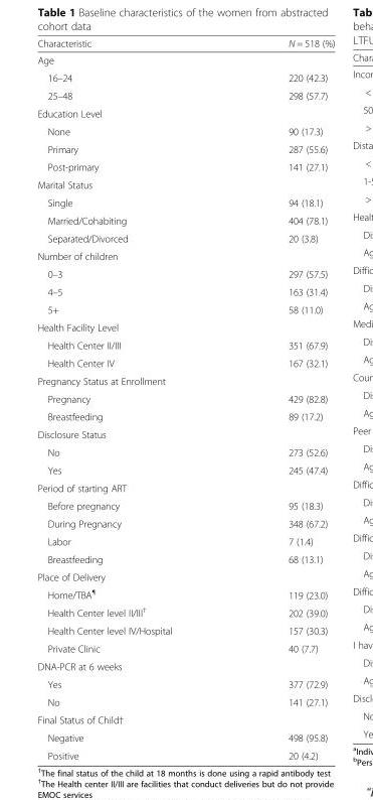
<table><thead><tr><td>Characteristic</td><td>N = 518 (%)</td></tr></thead><tbody><tr><td colspan="2">Age</td></tr><tr><td>16–24</td><td>220 (42.3)</td></tr><tr><td>25–48</td><td>298 (57.7)</td></tr><tr><td colspan="2">Education Level</td></tr><tr><td>None</td><td>90 (17.3)</td></tr><tr><td>Primary</td><td>287 (55.6)</td></tr><tr><td>Post-primary</td><td>141 (27.1)</td></tr><tr><td colspan="2">Marital Status</td></tr><tr><td>Single</td><td>94 (18.1)</td></tr><tr><td>Married/Cohabiting</td><td>404 (78.1)</td></tr><tr><td>Separated/Divorced</td><td>20 (3.8)</td></tr><tr><td colspan="2">Number of children</td></tr><tr><td>0–3</td><td>297 (57.5)</td></tr><tr><td>4–5</td><td>163 (31.4)</td></tr><tr><td>5+</td><td>58 (11.0)</td></tr><tr><td colspan="2">Health Facility Level</td></tr><tr><td>Health Center II/III</td><td>351 (67.9)</td></tr><tr><td>Health Center IV</td><td>167 (32.1)</td></tr><tr><td colspan="2">Pregnancy Status at Enrollment</td></tr><tr><td>Pregnancy</td><td>429 (82.8)</td></tr><tr><td>Breastfeeding</td><td>89 (17.2)</td></tr><tr><td colspan="2">Disclosure Status</td></tr><tr><td>No</td><td>273 (52.6)</td></tr><tr><td>Yes</td><td>245 (47.4)</td></tr><tr><td colspan="2">Period of starting ART</td></tr><tr><td>Before pregnancy</td><td>95 (18.3)</td></tr><tr><td>During Pregnancy</td><td>348 (67.2)</td></tr><tr><td>Labor</td><td>7 (1.4)</td></tr><tr><td>Breastfeeding</td><td>68 (13.1)</td></tr><tr><td colspan="2">Place of Delivery</td></tr><tr><td>Home/TBA<sup>¶</sup></td><td>119 (23.0)</td></tr><tr><td>Health Center level II/III<sup>†</sup></td><td>202 (39.0)</td></tr><tr><td>Health Center level IV/Hospital</td><td>157 (30.3)</td></tr><tr><td>Private Clinic</td><td>40 (7.7)</td></tr><tr><td colspan="2">DNA-PCR at 6 weeks</td></tr><tr><td>Yes</td><td>377 (72.9)</td></tr><tr><td>No</td><td>141 (27.1)</td></tr><tr><td colspan="2">Final Status of Child†</td></tr><tr><td>Negative</td><td>498 (95.8)</td></tr><tr><td>Positive</td><td>20 (4.2)</td></tr></tbody></table>